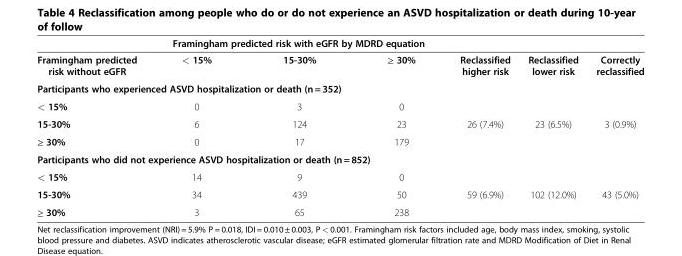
<table><thead><tr><td rowspan="2">Framingham predicted risk without eGFR</td><td colspan="3">Framingham predicted risk with eGFR by MDRD equation</td><td rowspan="2">Reclassified higher risk</td><td rowspan="2">Reclassified lower risk</td><td rowspan="2">Correctly reclassified</td></tr><tr><td>&lt; 15%</td><td>15-30%</td><td>≥ 30%</td></tr></thead><tbody><tr><td colspan="7">Participants who experienced ASVD hospitalization or death (n = 352)</td></tr><tr><td>&lt; 15%</td><td>0</td><td>3</td><td>0</td><td></td><td></td><td></td></tr><tr><td>15-30%</td><td>6</td><td>124</td><td>23</td><td>26 (7.4%)</td><td>23 (6.5%)</td><td>3 (0.9%)</td></tr><tr><td>≥ 30%</td><td>0</td><td>17</td><td>179</td><td></td><td></td><td></td></tr><tr><td colspan="7">Participants who did not experience ASVD hospitalization or death (n = 852)</td></tr><tr><td>&lt; 15%</td><td>14</td><td>9</td><td>0</td><td></td><td></td><td></td></tr><tr><td>15-30%</td><td>34</td><td>439</td><td>50</td><td>59 (6.9%)</td><td>102 (12.0%)</td><td>43 (5.0%)</td></tr><tr><td>≥ 30%</td><td>3</td><td>65</td><td>238</td><td></td><td></td><td></td></tr></tbody></table>